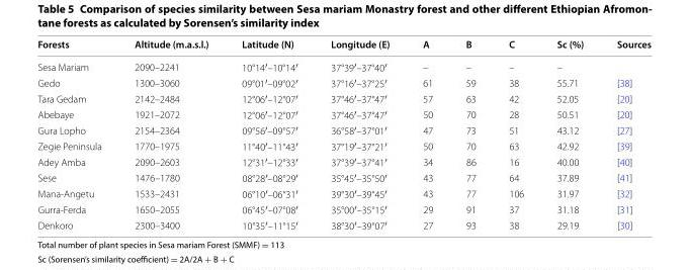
<table><thead><tr><td>Forests</td><td>Altitude (m.a.s.l.)</td><td>Latitude (N)</td><td>Longitude (E)</td><td>A</td><td>B</td><td>C</td><td>Sc (%)</td><td>Sources</td></tr></thead><tbody><tr><td>Sesa Mariam</td><td>2090–2241</td><td>10°14′–10°14′</td><td>37°39′–37°40′</td><td>–</td><td>–</td><td>–</td><td>–</td><td></td></tr><tr><td>Gedo</td><td>1300–3060</td><td>09°01′–09°02′</td><td>37°16′–37°25′</td><td>61</td><td>59</td><td>38</td><td>55.71</td><td>[38]</td></tr><tr><td>Tara Gedam</td><td>2142–2484</td><td>12°06′–12°07′</td><td>37°46′–37°47′</td><td>57</td><td>63</td><td>42</td><td>52.05</td><td>[20]</td></tr><tr><td>Abebaye</td><td>1921–2072</td><td>12°06′–12°07′</td><td>37°46′–37°47′</td><td>50</td><td>70</td><td>28</td><td>50.51</td><td>[20]</td></tr><tr><td>Gura Lopho</td><td>2154–2364</td><td>09°56′–09°57′</td><td>36°58′–37°01′</td><td>47</td><td>73</td><td>51</td><td>43.12</td><td>[27]</td></tr><tr><td>Zegie Peninsula</td><td>1770–1975</td><td>11°40′–11°43′</td><td>37°19′–37°21′</td><td>50</td><td>70</td><td>63</td><td>42.92</td><td>[39]</td></tr><tr><td>Adey Amba</td><td>2090–2603</td><td>12°31′–12°33′</td><td>37°39′–37°41′</td><td>34</td><td>86</td><td>16</td><td>40.00</td><td>[40]</td></tr><tr><td>Sese</td><td>1476–1780</td><td>08°28′–08°29′</td><td>35°45′–35°50′</td><td>43</td><td>77</td><td>64</td><td>37.89</td><td>[41]</td></tr><tr><td>Mana-Angetu</td><td>1533–2431</td><td>06°10′–06°31′</td><td>39°30′–39°45′</td><td>43</td><td>77</td><td>106</td><td>31.97</td><td>[32]</td></tr><tr><td>Gurra-Ferda</td><td>1650–2055</td><td>06°45′–07°08′</td><td>35°00′–35°15′</td><td>29</td><td>91</td><td>37</td><td>31.18</td><td>[31]</td></tr><tr><td>Denkoro</td><td>2300–3400</td><td>10°35′–11°15′</td><td>38°30′–39°07′</td><td>27</td><td>93</td><td>38</td><td>29.19</td><td>[30]</td></tr></tbody></table>